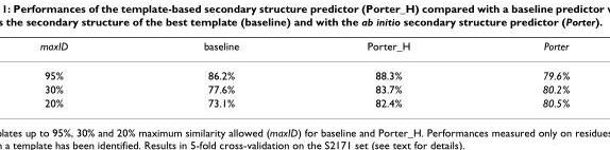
<table><thead><tr><td>maxID</td><td>baseline</td><td>Porter_H</td><td>Porter</td></tr></thead><tbody><tr><td>95%</td><td>86.2%</td><td>88.3%</td><td>79.6%</td></tr><tr><td>30%</td><td>77.6%</td><td>83.7%</td><td>80.2%</td></tr><tr><td>20%</td><td>73.1%</td><td>82.4%</td><td>80.5%</td></tr></tbody></table>